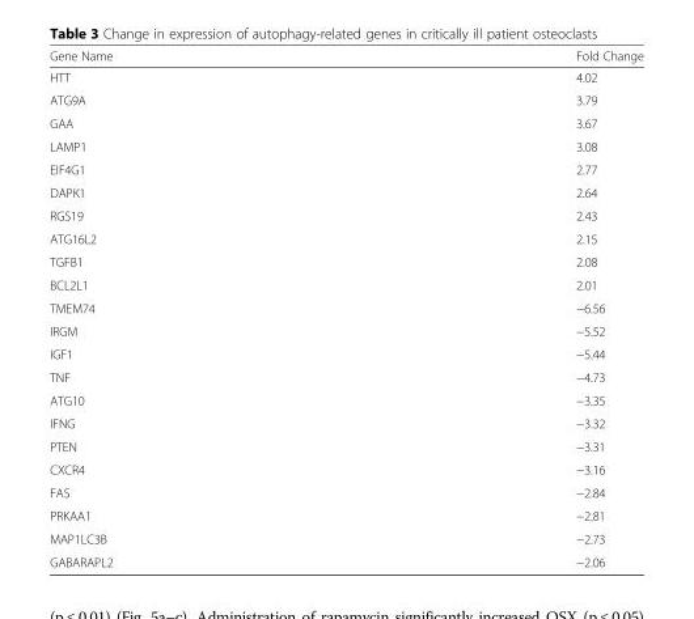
<table><thead><tr><td>Gene Name</td><td>Fold Change</td></tr></thead><tbody><tr><td>HTT</td><td>4.02</td></tr><tr><td>ATG9A</td><td>3.79</td></tr><tr><td>GAA</td><td>3.67</td></tr><tr><td>LAMP1</td><td>3.08</td></tr><tr><td>EIF4G1</td><td>2.77</td></tr><tr><td>DAPK1</td><td>2.64</td></tr><tr><td>RGS19</td><td>2.43</td></tr><tr><td>ATG16L2</td><td>2.15</td></tr><tr><td>TGFB1</td><td>2.08</td></tr><tr><td>BCL2L1</td><td>2.01</td></tr><tr><td>TMEM74</td><td>−6.56</td></tr><tr><td>IRGM</td><td>−5.52</td></tr><tr><td>IGF1</td><td>−5.44</td></tr><tr><td>TNF</td><td>−4.73</td></tr><tr><td>ATG10</td><td>−3.35</td></tr><tr><td>IFNG</td><td>−3.32</td></tr><tr><td>PTEN</td><td>−3.31</td></tr><tr><td>CXCR4</td><td>−3.16</td></tr><tr><td>FAS</td><td>−2.84</td></tr><tr><td>PRKAA1</td><td>−2.81</td></tr><tr><td>MAP1LC3B</td><td>−2.73</td></tr><tr><td>GABARAPL2</td><td>−2.06</td></tr></tbody></table>